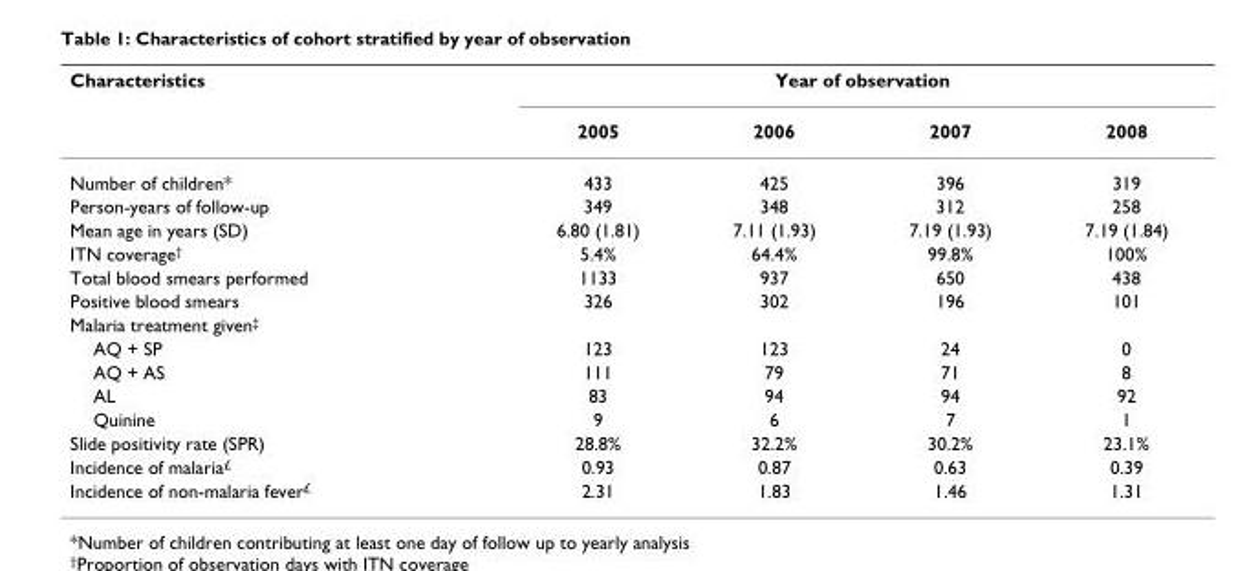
<table><thead><tr><td rowspan="2">Characteristics</td><td colspan="4">Year of observation</td></tr><tr><td>2005</td><td>2006</td><td>2007</td><td>2008</td></tr></thead><tbody><tr><td>Number of children*</td><td>433</td><td>425</td><td>396</td><td>319</td></tr><tr><td>Person-years of follow-up</td><td>349</td><td>348</td><td>312</td><td>258</td></tr><tr><td>Mean age in years (SD)</td><td>6.80 (1.81)</td><td>7.11 (1.93)</td><td>7.19 (1.93)</td><td>7.19 (1.84)</td></tr><tr><td>ITN coverage<sup>†</sup></td><td>5.4%</td><td>64.4%</td><td>99.8%</td><td>100%</td></tr><tr><td>Total blood smears performed</td><td>1133</td><td>937</td><td>650</td><td>438</td></tr><tr><td>Positive blood smears</td><td>326</td><td>302</td><td>196</td><td>101</td></tr><tr><td colspan="5">Malaria treatment given<sup>‡</sup></td></tr><tr><td>AQ + SP</td><td>123</td><td>123</td><td>24</td><td>0</td></tr><tr><td>AQ + AS</td><td>111</td><td>79</td><td>71</td><td>8</td></tr><tr><td>AL</td><td>83</td><td>94</td><td>94</td><td>92</td></tr><tr><td>Quinine</td><td>9</td><td>6</td><td>7</td><td>1</td></tr><tr><td>Slide positivity rate (SPR)</td><td>28.8%</td><td>32.2%</td><td>30.2%</td><td>23.1%</td></tr><tr><td>Incidence of malaria<sup>£</sup></td><td>0.93</td><td>0.87</td><td>0.63</td><td>0.39</td></tr><tr><td>Incidence of non-malaria fever<sup>£</sup></td><td>2.31</td><td>1.83</td><td>1.46</td><td>1.31</td></tr></tbody></table>